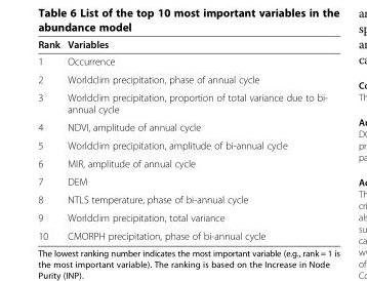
<table><thead><tr><td>Rank</td><td>Variables</td></tr></thead><tbody><tr><td>1</td><td>Occurrence</td></tr><tr><td>2</td><td>Worldclim precipitation, phase of annual cycle</td></tr><tr><td>3</td><td>Worldclim precipitation, proportion of total variance due to bi- annual cycle</td></tr><tr><td>4</td><td>NDVI, amplitude of annual cycle</td></tr><tr><td>5</td><td>Worldclim precipitation, amplitude of bi-annual cycle</td></tr><tr><td>6</td><td>MIR, amplitude of annual cycle</td></tr><tr><td>7</td><td>DEM</td></tr><tr><td>8</td><td>NTLS temperature, phase of bi-annual cycle</td></tr><tr><td>9</td><td>Worldclim precipitation, total variance</td></tr><tr><td>10</td><td>CMORPH precipitation, phase of bi-annual cycle</td></tr></tbody></table>